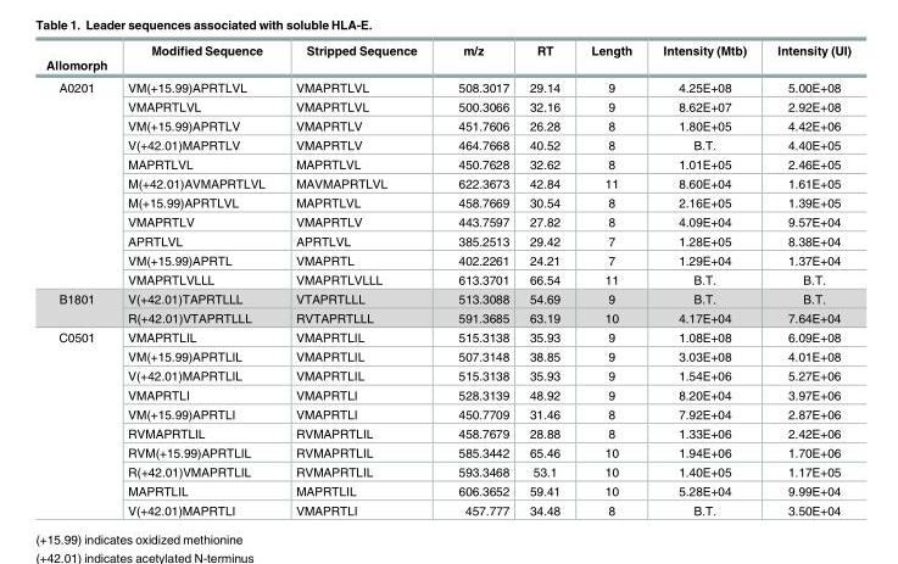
<table><thead><tr><td>Allomorph</td><td>Modified Sequence</td><td>Stripped Sequence</td><td>m/z</td><td>RT</td><td>Length</td><td>Intensity (Mtb)</td><td>Intensity (UI)</td></tr></thead><tbody><tr><td rowspan="11">A0201</td><td>VM(+15.99)APRTLVL</td><td>VMAPRTLVL</td><td>508.3017</td><td>29.14</td><td>9</td><td>4.25E+08</td><td>5.00E+08</td></tr><tr><td>VMAPRTLVL</td><td>VMAPRTLVL</td><td>500.3066</td><td>32.16</td><td>9</td><td>8.62E+07</td><td>2.92E+08</td></tr><tr><td>VM(+15.99)APRTLV</td><td>VMAPRTLV</td><td>451.7606</td><td>26.28</td><td>8</td><td>1.80E+05</td><td>4.42E+06</td></tr><tr><td>V(+42.01)MAPRTLV</td><td>VMAPRTLV</td><td>464.7668</td><td>40.52</td><td>8</td><td>B.T.</td><td>4.40E+05</td></tr><tr><td>MAPRTLVL</td><td>MAPRTLVL</td><td>450.7628</td><td>32.62</td><td>8</td><td>1.01E+05</td><td>2.46E+05</td></tr><tr><td>M(+42.01)AVMAPRTLVL</td><td>MAVMAPRTLVL</td><td>622.3673</td><td>42.84</td><td>11</td><td>8.60E+04</td><td>1.61E+05</td></tr><tr><td>M(+15.99)APRTLVL</td><td>MAPRTLVL</td><td>458.7669</td><td>30.54</td><td>8</td><td>2.16E+05</td><td>1.39E+05</td></tr><tr><td>VMAPRTLV</td><td>VMAPRTLV</td><td>443.7597</td><td>27.82</td><td>8</td><td>4.09E+04</td><td>9.57E+04</td></tr><tr><td>APRTLVL</td><td>APRTLVL</td><td>385.2513</td><td>29.42</td><td>7</td><td>1.28E+05</td><td>8.38E+04</td></tr><tr><td>VM(+15.99)APRTL</td><td>VMAPRTL</td><td>402.2261</td><td>24.21</td><td>7</td><td>1.29E+04</td><td>1.37E+04</td></tr><tr><td>VMAPRTLVLLL</td><td>VMAPRTLVLLL</td><td>613.3701</td><td>66.54</td><td>11</td><td>B.T.</td><td>B.T.</td></tr><tr><td rowspan="2">B1801</td><td>V(+42.01)TAPRTLLL</td><td>VTAPRTLLL</td><td>513.3088</td><td>54.69</td><td>9</td><td>B.T.</td><td>B.T.</td></tr><tr><td>R(+42.01)VTAPRTLLL</td><td>RVTAPRTLLL</td><td>591.3685</td><td>63.19</td><td>10</td><td>4.17E+04</td><td>7.64E+04</td></tr><tr><td rowspan="10">C0501</td><td>VMAPRTLIL</td><td>VMAPRTLIL</td><td>515.3138</td><td>35.93</td><td>9</td><td>1.08E+08</td><td>6.09E+08</td></tr><tr><td>VM(+15.99)APRTLIL</td><td>VMAPRTLIL</td><td>507.3148</td><td>38.85</td><td>9</td><td>3.03E+08</td><td>4.01E+08</td></tr><tr><td>V(+42.01)MAPRTLIL</td><td>VMAPRTLIL</td><td>515.3138</td><td>35.93</td><td>9</td><td>1.54E+06</td><td>5.27E+06</td></tr><tr><td>VMAPRTLI</td><td>VMAPRTLI</td><td>528.3139</td><td>48.92</td><td>9</td><td>8.20E+04</td><td>3.97E+06</td></tr><tr><td>VM(+15.99)APRTLI</td><td>VMAPRTLI</td><td>450.7709</td><td>31.46</td><td>8</td><td>7.92E+04</td><td>2.87E+06</td></tr><tr><td>RVMAPRTLIL</td><td>RVMAPRTLIL</td><td>458.7679</td><td>28.88</td><td>8</td><td>1.33E+06</td><td>2.42E+06</td></tr><tr><td>RVM(+15.99)APRTLIL</td><td>RVMAPRTLIL</td><td>585.3442</td><td>65.46</td><td>10</td><td>1.94E+06</td><td>1.70E+06</td></tr><tr><td>R(+42.01)VMAPRTLIL</td><td>RVMAPRTLIL</td><td>593.3468</td><td>53.1</td><td>10</td><td>1.40E+05</td><td>1.17E+05</td></tr><tr><td>MAPRTLIL</td><td>MAPRTLIL</td><td>606.3652</td><td>59.41</td><td>10</td><td>5.28E+04</td><td>9.99E+04</td></tr><tr><td>V(+42.01)MAPRTLI</td><td>VMAPRTLI</td><td>457.777</td><td>34.48</td><td>8</td><td>B.T.</td><td>3.50E+04</td></tr></tbody></table>